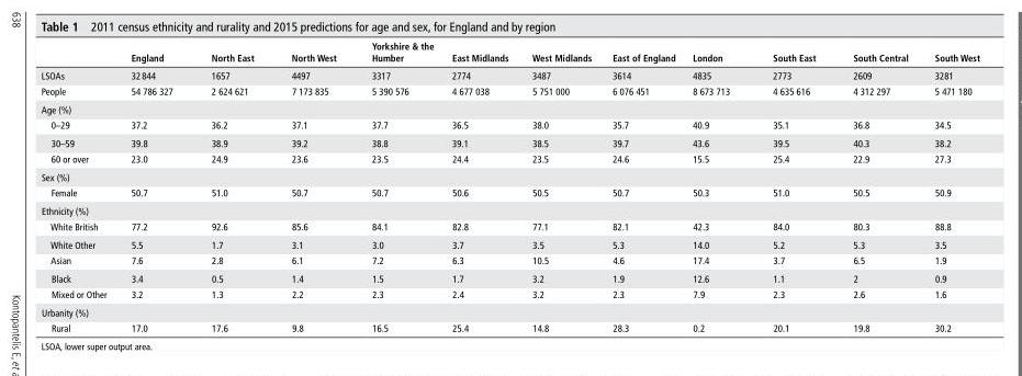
<table><thead><tr><td></td><td>england</td><td>north east</td><td>north West</td><td>Yorkshire &amp; the humber</td><td>east Midlands</td><td>West Midlands</td><td>east of england</td><td>london</td><td>south east</td><td>south Central</td><td>south West</td></tr></thead><tbody><tr><td>LSOAs</td><td>32 844</td><td>1657</td><td>4497</td><td>3317</td><td>2774</td><td>3487</td><td>3614</td><td>4835</td><td>2773</td><td>2609</td><td>3281</td></tr><tr><td>People</td><td>54 786 327</td><td>2 624 621</td><td>7 173 835</td><td>5 390 576</td><td>4 677 038</td><td>5 751 000</td><td>6 076 451</td><td>8 673 713</td><td>4 635 616</td><td>4 312 297</td><td>5 471 180</td></tr><tr><td colspan="12">Age (%)</td></tr><tr><td>0–29</td><td>37.2</td><td>36.2</td><td>37.1</td><td>37.7</td><td>36.5</td><td>38.0</td><td>35.7</td><td>40.9</td><td>35.1</td><td>36.8</td><td>34.5</td></tr><tr><td>30–59</td><td>39.8</td><td>38.9</td><td>39.2</td><td>38.8</td><td>39.1</td><td>38.5</td><td>39.7</td><td>43.6</td><td>39.5</td><td>40.3</td><td>38.2</td></tr><tr><td>60 or over</td><td>23.0</td><td>24.9</td><td>23.6</td><td>23.5</td><td>24.4</td><td>23.5</td><td>24.6</td><td>15.5</td><td>25.4</td><td>22.9</td><td>27.3</td></tr><tr><td colspan="12">Sex (%)</td></tr><tr><td>Female</td><td>50.7</td><td>51.0</td><td>50.7</td><td>50.7</td><td>50.6</td><td>50.5</td><td>50.7</td><td>50.3</td><td>51.0</td><td>50.5</td><td>50.9</td></tr><tr><td colspan="12">Ethnicity (%)</td></tr><tr><td>White British</td><td>77.2</td><td>92.6</td><td>85.6</td><td>84.1</td><td>82.8</td><td>77.1</td><td>82.1</td><td>42.3</td><td>84.0</td><td>80.3</td><td>88.8</td></tr><tr><td>White Other</td><td>5.5</td><td>1.7</td><td>3.1</td><td>3.0</td><td>3.7</td><td>3.5</td><td>5.3</td><td>14.0</td><td>5.2</td><td>5.3</td><td>3.5</td></tr><tr><td>Asian</td><td>7.6</td><td>2.8</td><td>6.1</td><td>7.2</td><td>6.3</td><td>10.5</td><td>4.6</td><td>17.4</td><td>3.7</td><td>6.5</td><td>1.9</td></tr><tr><td>Black</td><td>3.4</td><td>0.5</td><td>1.4</td><td>1.5</td><td>1.7</td><td>3.2</td><td>1.9</td><td>12.6</td><td>1.1</td><td>2</td><td>0.9</td></tr><tr><td>Mixed or Other</td><td>3.2</td><td>1.3</td><td>2.2</td><td>2.3</td><td>2.4</td><td>3.2</td><td>2.3</td><td>7.9</td><td>2.3</td><td>2.6</td><td>1.6</td></tr><tr><td colspan="12">Urbanity (%)</td></tr><tr><td>Rural</td><td>17.0</td><td>17.6</td><td>9.8</td><td>16.5</td><td>25.4</td><td>14.8</td><td>28.3</td><td>0.2</td><td>20.1</td><td>19.8</td><td>30.2</td></tr></tbody></table>